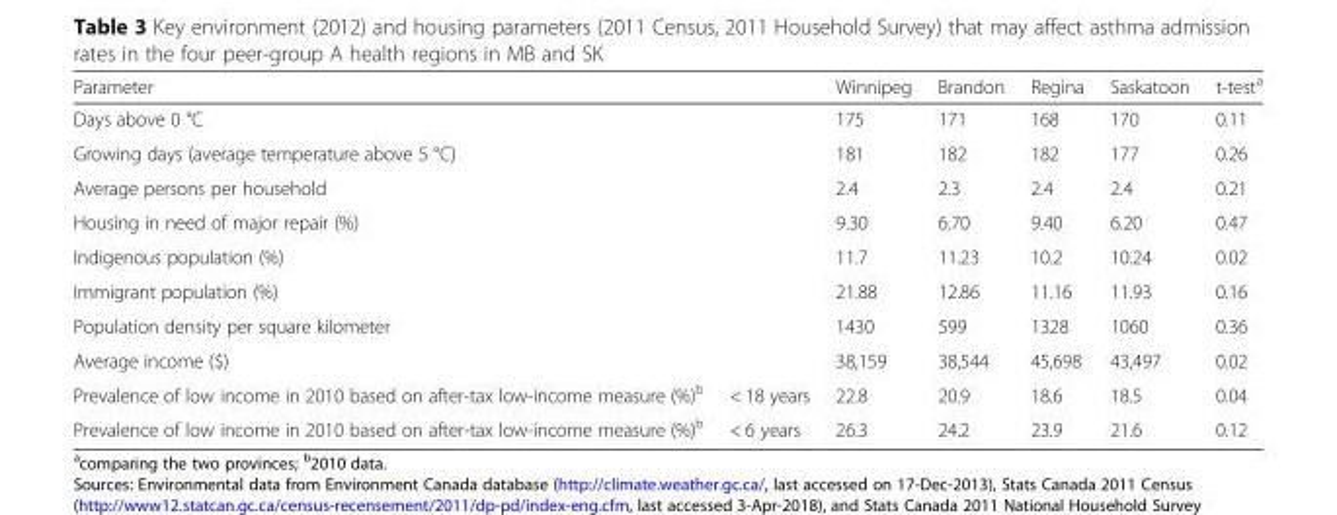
<table><thead><tr><td colspan="2">Parameter</td><td>Winnipeg</td><td>Brandon</td><td>Regina</td><td>Saskatoon</td><td>t-test<sup>a</sup></td></tr></thead><tbody><tr><td colspan="2">Days above 0 °C</td><td>175</td><td>171</td><td>168</td><td>170</td><td>0.11</td></tr><tr><td colspan="2">Growing days (average temperature above 5 °C)</td><td>181</td><td>182</td><td>182</td><td>177</td><td>0.26</td></tr><tr><td colspan="2">Average persons per household</td><td>2.4</td><td>2.3</td><td>2.4</td><td>2.4</td><td>0.21</td></tr><tr><td colspan="2">Housing in need of major repair (%)</td><td>9.30</td><td>6.70</td><td>9.40</td><td>6.20</td><td>0.47</td></tr><tr><td colspan="2">Indigenous population (%)</td><td>11.7</td><td>11.23</td><td>10.2</td><td>10.24</td><td>0.02</td></tr><tr><td colspan="2">Immigrant population (%)</td><td>21.88</td><td>12.86</td><td>11.16</td><td>11.93</td><td>0.16</td></tr><tr><td colspan="2">Population density per square kilometer</td><td>1430</td><td>599</td><td>1328</td><td>1060</td><td>0.36</td></tr><tr><td colspan="2">Average income ($)</td><td>38,159</td><td>38,544</td><td>45,698</td><td>43,497</td><td>0.02</td></tr><tr><td>Prevalence of low income in 2010 based on after-tax low-income measure (%)<sup>b</sup></td><td>&lt; 18 years</td><td>22.8</td><td>20.9</td><td>18.6</td><td>18.5</td><td>0.04</td></tr><tr><td>Prevalence of low income in 2010 based on after-tax low-income measure (%)<sup>b</sup></td><td>&lt; 6 years</td><td>26.3</td><td>24.2</td><td>23.9</td><td>21.6</td><td>0.12</td></tr></tbody></table>